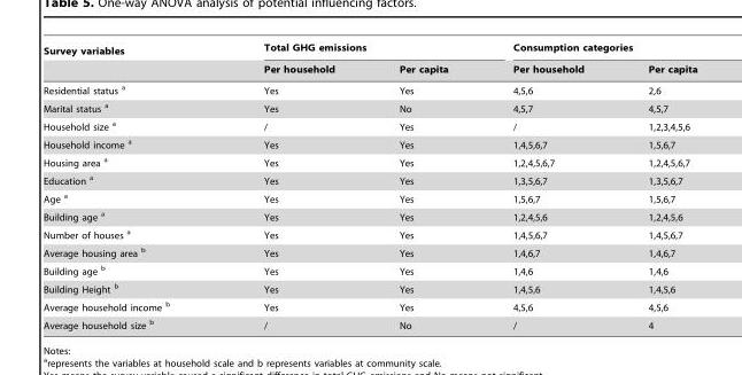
<table><thead><tr><td rowspan="2">Survey variables</td><td colspan="2">Total GHG emissions</td><td colspan="2">Consumption categories</td></tr><tr><td>Per household</td><td>Per capita</td><td>Per household</td><td>Per capita</td></tr></thead><tbody><tr><td>Residential status a</td><td>Yes</td><td>Yes</td><td>4,5,6</td><td>2,6</td></tr><tr><td>Marital status a</td><td>Yes</td><td>No</td><td>4,5,7</td><td>4,5,7</td></tr><tr><td>Household size a</td><td>/</td><td>Yes</td><td>/</td><td>1,2,3,4,5,6</td></tr><tr><td>Household income a</td><td>Yes</td><td>Yes</td><td>1,4,5,6,7</td><td>1,5,6,7</td></tr><tr><td>Housing area a</td><td>Yes</td><td>Yes</td><td>1,2,4,5,6,7</td><td>1,2,4,5,6,7</td></tr><tr><td>Education a</td><td>Yes</td><td>Yes</td><td>1,3,5,6,7</td><td>1,3,5,6,7</td></tr><tr><td>Age a</td><td>Yes</td><td>Yes</td><td>1,5,6,7</td><td>1,5,6,7</td></tr><tr><td>Building age a</td><td>Yes</td><td>Yes</td><td>1,2,4,5,6</td><td>1,2,4,5,6</td></tr><tr><td>Number of houses a</td><td>Yes</td><td>Yes</td><td>1,4,5,6,7</td><td>1,4,5,6,7</td></tr><tr><td>Average housing area <sup>b</sup></td><td>Yes</td><td>Yes</td><td>1,4,6,7</td><td>1,4,6,7</td></tr><tr><td>Building age <sup>b</sup></td><td>Yes</td><td>Yes</td><td>1,4,6</td><td>1,4,6</td></tr><tr><td>Building Height <sup>b</sup></td><td>Yes</td><td>Yes</td><td>1,4,5,6</td><td>1,4,5,6</td></tr><tr><td>Average household income <sup>b</sup></td><td>Yes</td><td>Yes</td><td>4,5,6</td><td>4,5,6</td></tr><tr><td>Average household size <sup>b</sup></td><td>/</td><td>No</td><td>/</td><td>4</td></tr></tbody></table>